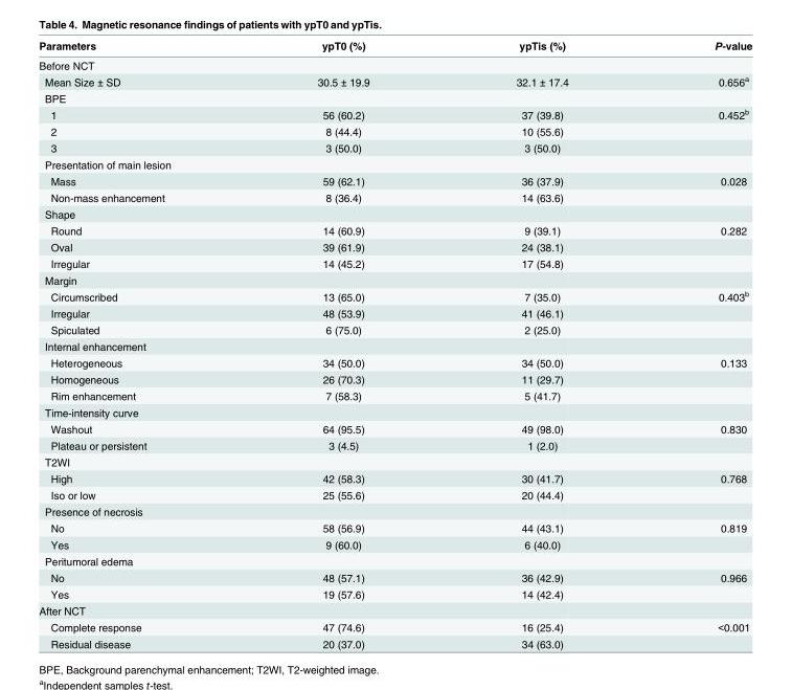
<table><thead><tr><td>Parameters</td><td>ypT0 (%)</td><td>ypTis (%)</td><td>P-value</td></tr></thead><tbody><tr><td colspan="4">Before NCT</td></tr><tr><td>Mean Size ± SD</td><td>30.5 ± 19.9</td><td>32.1 ± 17.4</td><td>0.656<sup>a</sup></td></tr><tr><td colspan="4">BPE</td></tr><tr><td>1</td><td>56 (60.2)</td><td>37 (39.8)</td><td>0.452<sup>b</sup></td></tr><tr><td>2</td><td>8 (44.4)</td><td>10 (55.6)</td><td></td></tr><tr><td>3</td><td>3 (50.0)</td><td>3 (50.0)</td><td></td></tr><tr><td colspan="4">Presentation of main lesion</td></tr><tr><td>Mass</td><td>59 (62.1)</td><td>36 (37.9)</td><td>0.028</td></tr><tr><td>Non-mass enhancement</td><td>8 (36.4)</td><td>14 (63.6)</td><td></td></tr><tr><td colspan="4">Shape</td></tr><tr><td>Round</td><td>14 (60.9)</td><td>9 (39.1)</td><td>0.282</td></tr><tr><td>Oval</td><td>39 (61.9)</td><td>24 (38.1)</td><td></td></tr><tr><td>Irregular</td><td>14 (45.2)</td><td>17 (54.8)</td><td></td></tr><tr><td colspan="4">Margin</td></tr><tr><td>Circumscribed</td><td>13 (65.0)</td><td>7 (35.0)</td><td>0.403<sup>b</sup></td></tr><tr><td>Irregular</td><td>48 (53.9)</td><td>41 (46.1)</td><td></td></tr><tr><td>Spiculated</td><td>6 (75.0)</td><td>2 (25.0)</td><td></td></tr><tr><td colspan="4">Internal enhancement</td></tr><tr><td>Heterogeneous</td><td>34 (50.0)</td><td>34 (50.0)</td><td>0.133</td></tr><tr><td>Homogeneous</td><td>26 (70.3)</td><td>11 (29.7)</td><td></td></tr><tr><td>Rim enhancement</td><td>7 (58.3)</td><td>5 (41.7)</td><td></td></tr><tr><td colspan="4">Time-intensity curve</td></tr><tr><td>Washout</td><td>64 (95.5)</td><td>49 (98.0)</td><td>0.830</td></tr><tr><td>Plateau or persistent</td><td>3 (4.5)</td><td>1 (2.0)</td><td></td></tr><tr><td colspan="4">T2WI</td></tr><tr><td>High</td><td>42 (58.3)</td><td>30 (41.7)</td><td>0.768</td></tr><tr><td>Iso or low</td><td>25 (55.6)</td><td>20 (44.4)</td><td></td></tr><tr><td colspan="4">Presence of necrosis</td></tr><tr><td>No</td><td>58 (56.9)</td><td>44 (43.1)</td><td>0.819</td></tr><tr><td>Yes</td><td>9 (60.0)</td><td>6 (40.0)</td><td></td></tr><tr><td colspan="4">Peritumoral edema</td></tr><tr><td>No</td><td>48 (57.1)</td><td>36 (42.9)</td><td>0.966</td></tr><tr><td>Yes</td><td>19 (57.6)</td><td>14 (42.4)</td><td></td></tr><tr><td colspan="4">After NCT</td></tr><tr><td>Complete response</td><td>47 (74.6)</td><td>16 (25.4)</td><td>&lt;0.001</td></tr><tr><td>Residual disease</td><td>20 (37.0)</td><td>34 (63.0)</td><td></td></tr></tbody></table>